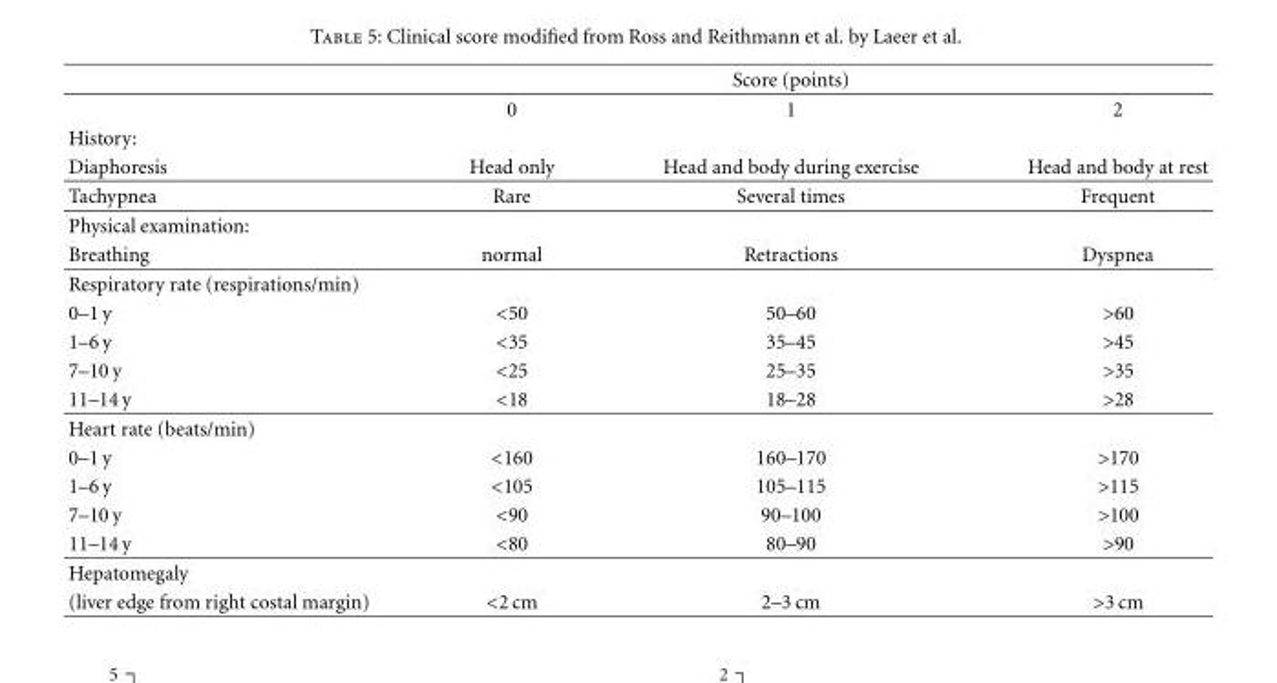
<table><thead><tr><td></td><td></td><td>Score (points)</td><td></td></tr></thead><tbody><tr><td></td><td>0</td><td>1</td><td>2</td></tr><tr><td colspan="4">History:</td></tr><tr><td>Diaphoresis</td><td>Head only</td><td>Head and body during exercise</td><td>Head and body at rest</td></tr><tr><td>Tachypnea</td><td>Rare</td><td>Several times</td><td>Frequent</td></tr><tr><td colspan="4">Physical examination:</td></tr><tr><td>Breathing</td><td>normal</td><td>Retractions</td><td>Dyspnea</td></tr><tr><td colspan="4">Respiratory rate (respirations/min)</td></tr><tr><td>0–1 y</td><td>&lt;50</td><td>50–60</td><td>&gt;60</td></tr><tr><td>1–6 y</td><td>&lt;35</td><td>35–45</td><td>&gt;45</td></tr><tr><td>7–10 y</td><td>&lt;25</td><td>25–35</td><td>&gt;35</td></tr><tr><td>11–14 y</td><td>&lt;18</td><td>18–28</td><td>&gt;28</td></tr><tr><td colspan="4">Heart rate (beats/min)</td></tr><tr><td>0–1 y</td><td>&lt;160</td><td>160–170</td><td>&gt;170</td></tr><tr><td>1–6 y</td><td>&lt;105</td><td>105–115</td><td>&gt;115</td></tr><tr><td>7–10 y</td><td>&lt;90</td><td>90–100</td><td>&gt;100</td></tr><tr><td>11–14 y</td><td>&lt;80</td><td>80–90</td><td>&gt;90</td></tr><tr><td colspan="4">Hepatomegaly</td></tr><tr><td>(liver edge from right costal margin)</td><td>&lt;2 cm</td><td>2–3 cm</td><td>&gt;3 cm</td></tr></tbody></table>